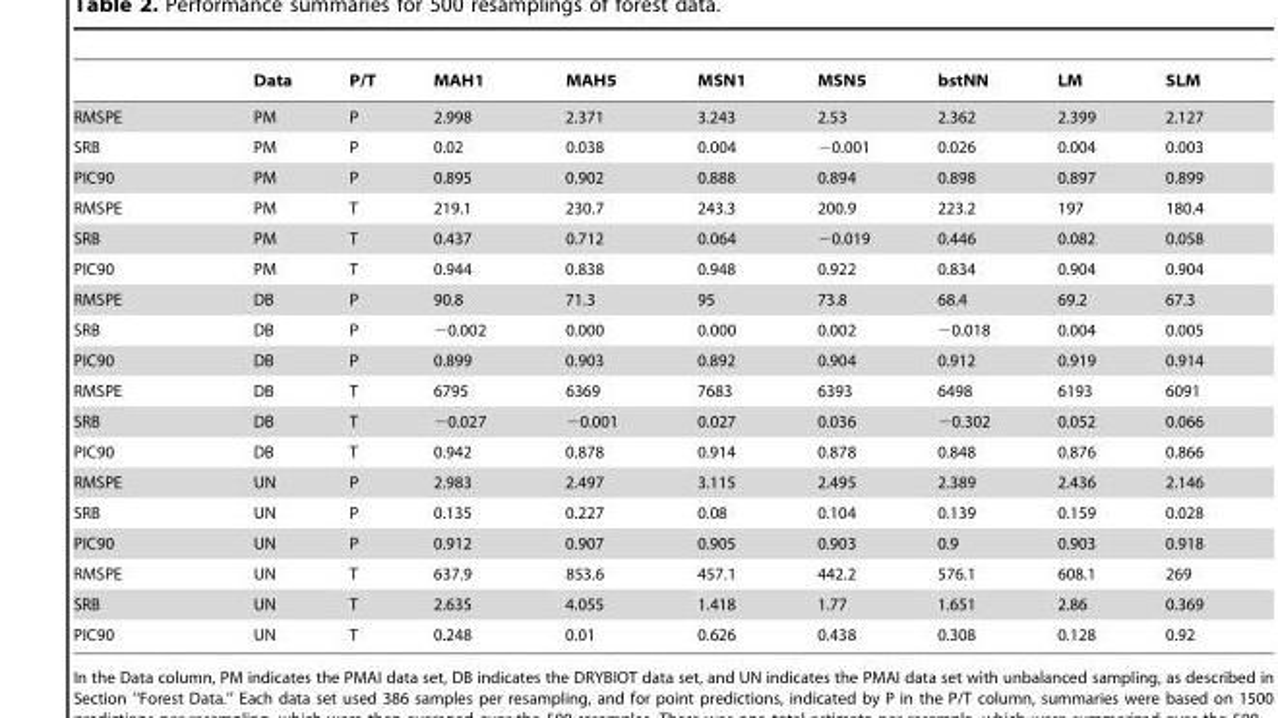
<table><thead><tr><td></td><td>Data</td><td>P/T</td><td>MAH1</td><td>MAH5</td><td>MSN1</td><td>MSN5</td><td>bstNN</td><td>LM</td><td>SLM</td></tr></thead><tbody><tr><td>RMSPE</td><td>PM</td><td>P</td><td>2.998</td><td>2.371</td><td>3.243</td><td>2.53</td><td>2.362</td><td>2.399</td><td>2.127</td></tr><tr><td>SRB</td><td>PM</td><td>P</td><td>0.02</td><td>0.038</td><td>0.004</td><td>−0.001</td><td>0.026</td><td>0.004</td><td>0.003</td></tr><tr><td>PIC90</td><td>PM</td><td>P</td><td>0.895</td><td>0.902</td><td>0.888</td><td>0.894</td><td>0.898</td><td>0.897</td><td>0.899</td></tr><tr><td>RMSPE</td><td>PM</td><td>T</td><td>219.1</td><td>230.7</td><td>243.3</td><td>200.9</td><td>223.2</td><td>197</td><td>180.4</td></tr><tr><td>SRB</td><td>PM</td><td>T</td><td>0.437</td><td>0.712</td><td>0.064</td><td>−0.019</td><td>0.446</td><td>0.082</td><td>0.058</td></tr><tr><td>PIC90</td><td>PM</td><td>T</td><td>0.944</td><td>0.838</td><td>0.948</td><td>0.922</td><td>0.834</td><td>0.904</td><td>0.904</td></tr><tr><td>RMSPE</td><td>DB</td><td>P</td><td>90.8</td><td>71.3</td><td>95</td><td>73.8</td><td>68.4</td><td>69.2</td><td>67.3</td></tr><tr><td>SRB</td><td>DB</td><td>P</td><td>−0.002</td><td>0.000</td><td>0.000</td><td>0.002</td><td>−0.018</td><td>0.004</td><td>0.005</td></tr><tr><td>PIC90</td><td>DB</td><td>P</td><td>0.899</td><td>0.903</td><td>0.892</td><td>0.904</td><td>0.912</td><td>0.919</td><td>0.914</td></tr><tr><td>RMSPE</td><td>DB</td><td>T</td><td>6795</td><td>6369</td><td>7683</td><td>6393</td><td>6498</td><td>6193</td><td>6091</td></tr><tr><td>SRB</td><td>DB</td><td>T</td><td>−0.027</td><td>−0.001</td><td>0.027</td><td>0.036</td><td>−0.302</td><td>0.052</td><td>0.066</td></tr><tr><td>PIC90</td><td>DB</td><td>T</td><td>0.942</td><td>0.878</td><td>0.914</td><td>0.878</td><td>0.848</td><td>0.876</td><td>0.866</td></tr><tr><td>RMSPE</td><td>UN</td><td>P</td><td>2.983</td><td>2.497</td><td>3.115</td><td>2.495</td><td>2.389</td><td>2.436</td><td>2.146</td></tr><tr><td>SRB</td><td>UN</td><td>P</td><td>0.135</td><td>0.227</td><td>0.08</td><td>0.104</td><td>0.139</td><td>0.159</td><td>0.028</td></tr><tr><td>PIC90</td><td>UN</td><td>P</td><td>0.912</td><td>0.907</td><td>0.905</td><td>0.903</td><td>0.9</td><td>0.903</td><td>0.918</td></tr><tr><td>RMSPE</td><td>UN</td><td>T</td><td>637.9</td><td>853.6</td><td>457.1</td><td>442.2</td><td>576.1</td><td>608.1</td><td>269</td></tr><tr><td>SRB</td><td>UN</td><td>T</td><td>2.635</td><td>4.055</td><td>1.418</td><td>1.77</td><td>1.651</td><td>2.86</td><td>0.369</td></tr><tr><td>PIC90</td><td>UN</td><td>T</td><td>0.248</td><td>0.01</td><td>0.626</td><td>0.438</td><td>0.308</td><td>0.128</td><td>0.92</td></tr></tbody></table>